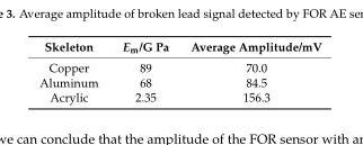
<table><thead><tr><td>Skeleton</td><td>E<sub>m</sub>/G Pa</td><td>Average Amplitude/mV</td></tr></thead><tbody><tr><td>Copper</td><td>89</td><td>70.0</td></tr><tr><td>Aluminum</td><td>68</td><td>84.5</td></tr><tr><td>Acrylic</td><td>2.35</td><td>156.3</td></tr></tbody></table>